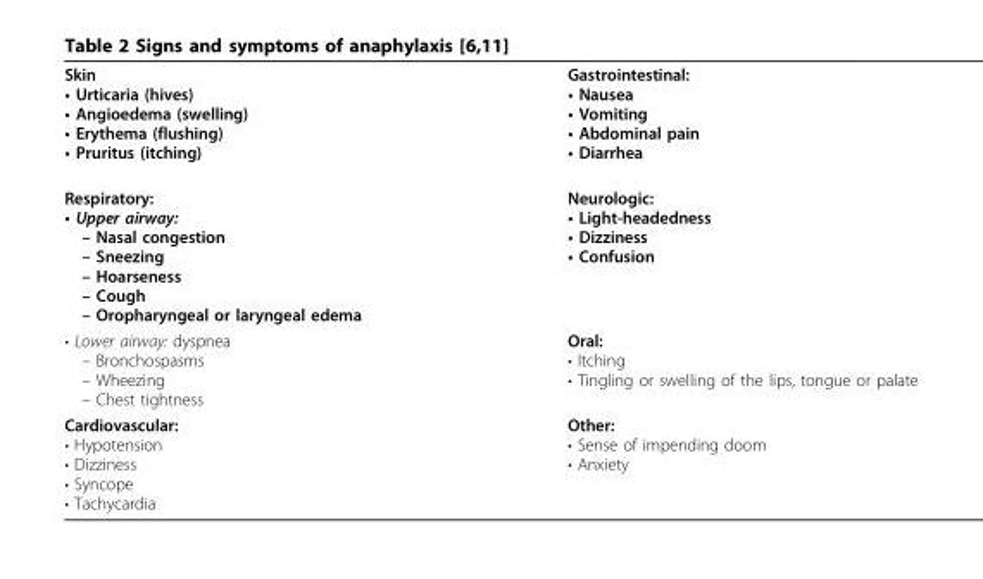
<table><tbody><tr><td>Skin • Urticaria (hives) • Angioedema (swelling) • Erythema (flushing) • Pruritus (itching)</td><td>Gastrointestinal: • Nausea • Vomiting • Abdominal pain • Diarrhea</td></tr><tr><td>Respiratory: • Upper airway: – Nasal congestion – Sneezing – Hoarseness – Cough – Oropharyngeal or laryngeal edema</td><td>Neurologic: • Light-headedness • Dizziness • Confusion</td></tr><tr><td>• Lower airway: dyspnea – Bronchospasms – Wheezing – Chest tightness</td><td>Oral: • Itching • Tingling or swelling of the lips, tongue or palate</td></tr><tr><td>Cardiovascular: • Hypotension • Dizziness • Syncope • Tachycardia</td><td>Other: • Sense of impending doom • Anxiety</td></tr></tbody></table>